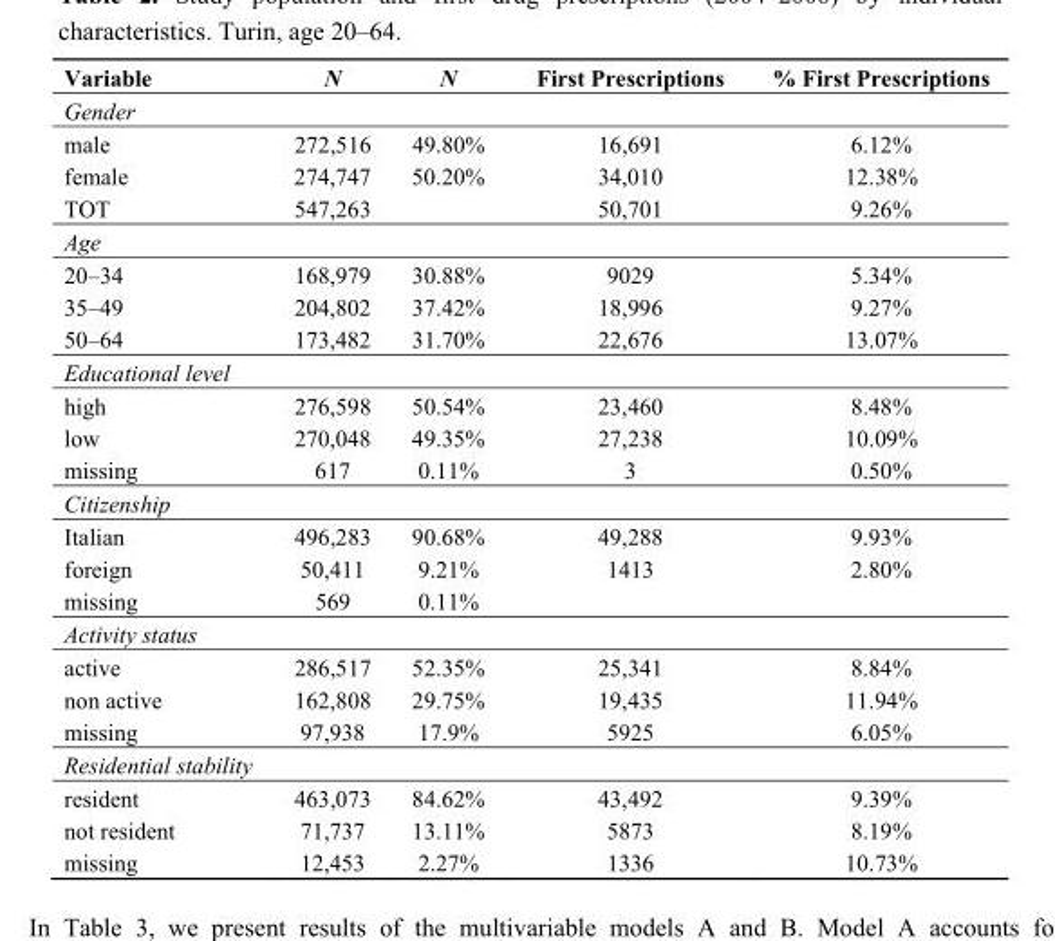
<table><thead><tr><td>Variable</td><td>N</td><td>N</td><td>First Prescriptions</td><td>% First Prescriptions</td></tr></thead><tbody><tr><td colspan="5">Gender</td></tr><tr><td>male</td><td>272,516</td><td>49.80%</td><td>16,691</td><td>6.12%</td></tr><tr><td>female</td><td>274,747</td><td>50.20%</td><td>34,010</td><td>12.38%</td></tr><tr><td>TOT</td><td>547,263</td><td></td><td>50,701</td><td>9.26%</td></tr><tr><td colspan="5">Age</td></tr><tr><td>20–34</td><td>168,979</td><td>30.88%</td><td>9029</td><td>5.34%</td></tr><tr><td>35–49</td><td>204,802</td><td>37.42%</td><td>18,996</td><td>9.27%</td></tr><tr><td>50–64</td><td>173,482</td><td>31.70%</td><td>22,676</td><td>13.07%</td></tr><tr><td colspan="5">Educational level</td></tr><tr><td>high</td><td>276,598</td><td>50.54%</td><td>23,460</td><td>8.48%</td></tr><tr><td>low</td><td>270,048</td><td>49.35%</td><td>27,238</td><td>10.09%</td></tr><tr><td>missing</td><td>617</td><td>0.11%</td><td>3</td><td>0.50%</td></tr><tr><td colspan="5">Citizenship</td></tr><tr><td>Italian</td><td>496,283</td><td>90.68%</td><td>49,288</td><td>9.93%</td></tr><tr><td>foreign</td><td>50,411</td><td>9.21%</td><td>1413</td><td>2.80%</td></tr><tr><td>missing</td><td>569</td><td>0.11%</td><td></td><td></td></tr><tr><td colspan="5">Activity status</td></tr><tr><td>active</td><td>286,517</td><td>52.35%</td><td>25,341</td><td>8.84%</td></tr><tr><td>non active</td><td>162,808</td><td>29.75%</td><td>19,435</td><td>11.94%</td></tr><tr><td>missing</td><td>97,938</td><td>17.9%</td><td>5925</td><td>6.05%</td></tr><tr><td colspan="5">Residential stability</td></tr><tr><td>resident</td><td>463,073</td><td>84.62%</td><td>43,492</td><td>9.39%</td></tr><tr><td>not resident</td><td>71,737</td><td>13.11%</td><td>5873</td><td>8.19%</td></tr><tr><td>missing</td><td>12,453</td><td>2.27%</td><td>1336</td><td>10.73%</td></tr></tbody></table>